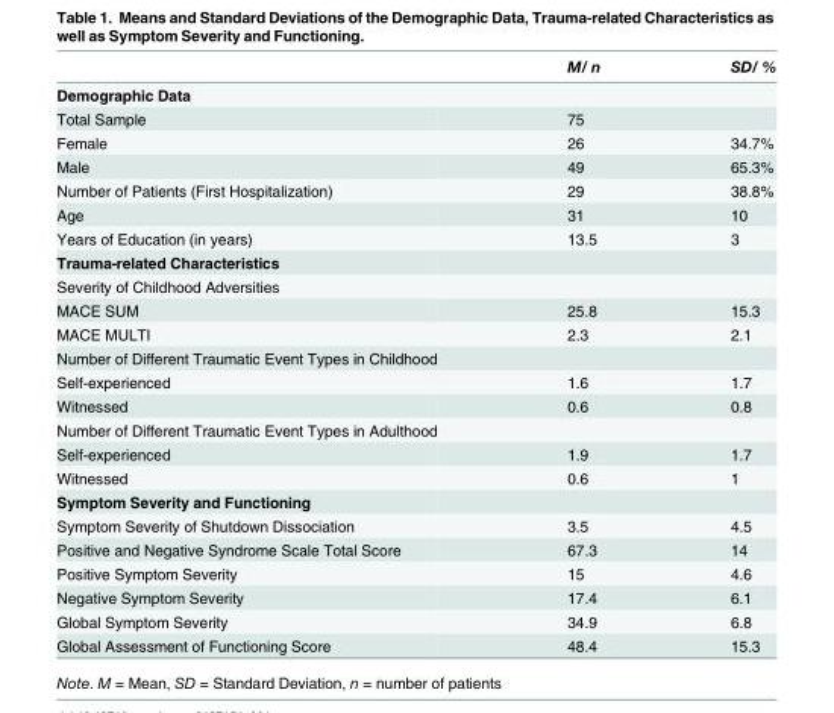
<table><thead><tr><td></td><td>M/ n</td><td>SD/ %</td></tr></thead><tbody><tr><td colspan="3">Demographic Data</td></tr><tr><td>Total Sample</td><td>75</td><td></td></tr><tr><td>Female</td><td>26</td><td>34.7%</td></tr><tr><td>Male</td><td>49</td><td>65.3%</td></tr><tr><td>Number of Patients (First Hospitalization)</td><td>29</td><td>38.8%</td></tr><tr><td>Age</td><td>31</td><td>10</td></tr><tr><td>Years of Education (in years)</td><td>13.5</td><td>3</td></tr><tr><td colspan="3">Trauma-related Characteristics</td></tr><tr><td colspan="3">Severity of Childhood Adversities</td></tr><tr><td>MACE SUM</td><td>25.8</td><td>15.3</td></tr><tr><td>MACE MULTI</td><td>2.3</td><td>2.1</td></tr><tr><td colspan="3">Number of Different Traumatic Event Types in Childhood</td></tr><tr><td>Self-experienced</td><td>1.6</td><td>1.7</td></tr><tr><td>Witnessed</td><td>0.6</td><td>0.8</td></tr><tr><td colspan="3">Number of Different Traumatic Event Types in Adulthood</td></tr><tr><td>Self-experienced</td><td>1.9</td><td>1.7</td></tr><tr><td>Witnessed</td><td>0.6</td><td>1</td></tr><tr><td colspan="3">Symptom Severity and Functioning</td></tr><tr><td>Symptom Severity of Shutdown Dissociation</td><td>3.5</td><td>4.5</td></tr><tr><td>Positive and Negative Syndrome Scale Total Score</td><td>67.3</td><td>14</td></tr><tr><td>Positive Symptom Severity</td><td>15</td><td>4.6</td></tr><tr><td>Negative Symptom Severity</td><td>17.4</td><td>6.1</td></tr><tr><td>Global Symptom Severity</td><td>34.9</td><td>6.8</td></tr><tr><td>Global Assessment of Functioning Score</td><td>48.4</td><td>15.3</td></tr></tbody></table>